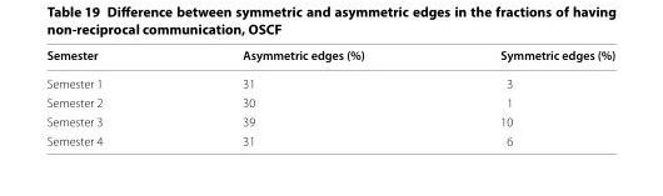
<table><thead><tr><td>Semester</td><td>Asymmetric edges (%)</td><td>Symmetric edges (%)</td></tr></thead><tbody><tr><td>Semester 1</td><td>31</td><td>3</td></tr><tr><td>Semester 2</td><td>30</td><td>1</td></tr><tr><td>Semester 3</td><td>39</td><td>10</td></tr><tr><td>Semester 4</td><td>31</td><td>6</td></tr></tbody></table>